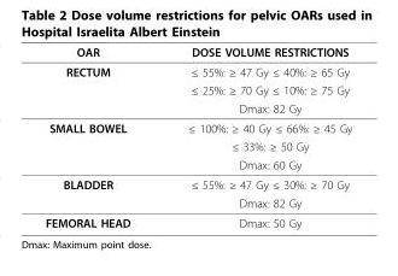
<table><thead><tr><td>OAR</td><td>DOSE VOLUME RESTRICTIONS</td></tr></thead><tbody><tr><td rowspan="3">RECTUM</td><td>≤ 55%: ≥ 47 Gy ≤ 40%: ≥ 65 Gy</td></tr><tr><td>≤ 25%: ≥ 70 Gy ≤ 10%: ≥ 75 Gy</td></tr><tr><td>Dmax: 82 Gy</td></tr><tr><td rowspan="3">SMALL BOWEL</td><td>≤ 100%: ≥ 40 Gy ≤ 66%: ≥ 45 Gy</td></tr><tr><td>≤ 33%: ≥ 50 Gy</td></tr><tr><td>Dmax: 60 Gy</td></tr><tr><td rowspan="2">BLADDER</td><td>≤ 55%: ≥ 47 Gy ≤ 30%: ≥ 70 Gy</td></tr><tr><td>Dmax: 82 Gy</td></tr><tr><td>FEMORAL HEAD</td><td>Dmax: 50 Gy</td></tr></tbody></table>